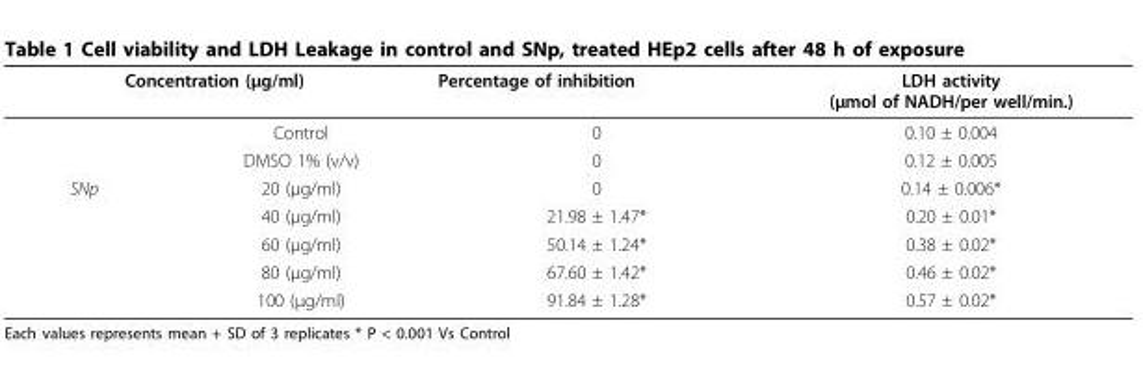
<table><thead><tr><td colspan="2">Concentration (μg/ml)</td><td rowspan="2">Percentage of inhibition 0</td><td rowspan="2">LDH activity (μmol of NADH/per well/min.) 0.10 ± 0.004</td></tr><tr><td></td><td>Control</td></tr></thead><tbody><tr><td></td><td>DMSO 1% (v/v)</td><td>0</td><td>0.12 ± 0.005</td></tr><tr><td rowspan="5">SNp</td><td>20 (μg/ml)</td><td>0</td><td>0.14 ± 0.006*</td></tr><tr><td>40 (μg/ml)</td><td>21.98 ± 1.47*</td><td>0.20 ± 0.01*</td></tr><tr><td>60 (μg/ml)</td><td>50.14 ± 1.24*</td><td>0.38 ± 0.02*</td></tr><tr><td>80 (μg/ml)</td><td>67.60 ± 1.42*</td><td>0.46 ± 0.02*</td></tr><tr><td>100 (μg/ml)</td><td>91.84 ± 1.28*</td><td>0.57 ± 0.02*</td></tr></tbody></table>